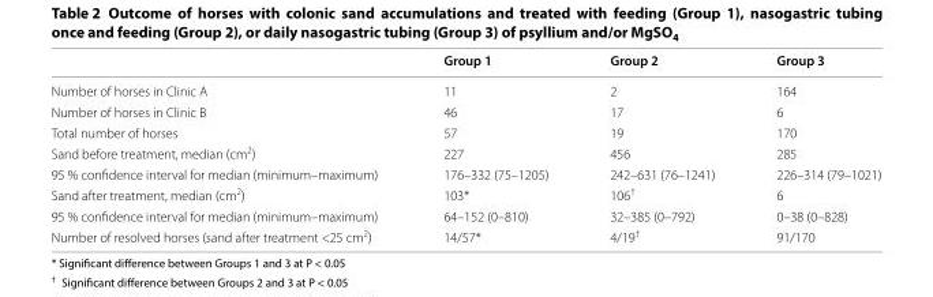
<table><thead><tr><td></td><td>Group 1</td><td>Group 2</td><td>Group 3</td></tr></thead><tbody><tr><td>Number of horses in Clinic A</td><td>11</td><td>2</td><td>164</td></tr><tr><td>Number of horses in Clinic B</td><td>46</td><td>17</td><td>6</td></tr><tr><td>Total number of horses</td><td>57</td><td>19</td><td>170</td></tr><tr><td>Sand before treatment, median (cm<sup>2</sup>)</td><td>227</td><td>456</td><td>285</td></tr><tr><td>95 % confidence interval for median (minimum–maximum)</td><td>176–332 (75–1205)</td><td>242–631 (76–1241)</td><td>226–314 (79–1021)</td></tr><tr><td>Sand after treatment, median (cm<sup>2</sup>)</td><td>103*</td><td>106<sup>†</sup></td><td>6</td></tr><tr><td>95 % confidence interval for median (minimum–maximum)</td><td>64–152 (0–810)</td><td>32–385 (0–792)</td><td>0–38 (0–828)</td></tr><tr><td>Number of resolved horses (sand after treatment &lt;25 cm<sup>2</sup>)</td><td>14/57*</td><td>4/19<sup>†</sup></td><td>91/170</td></tr></tbody></table>